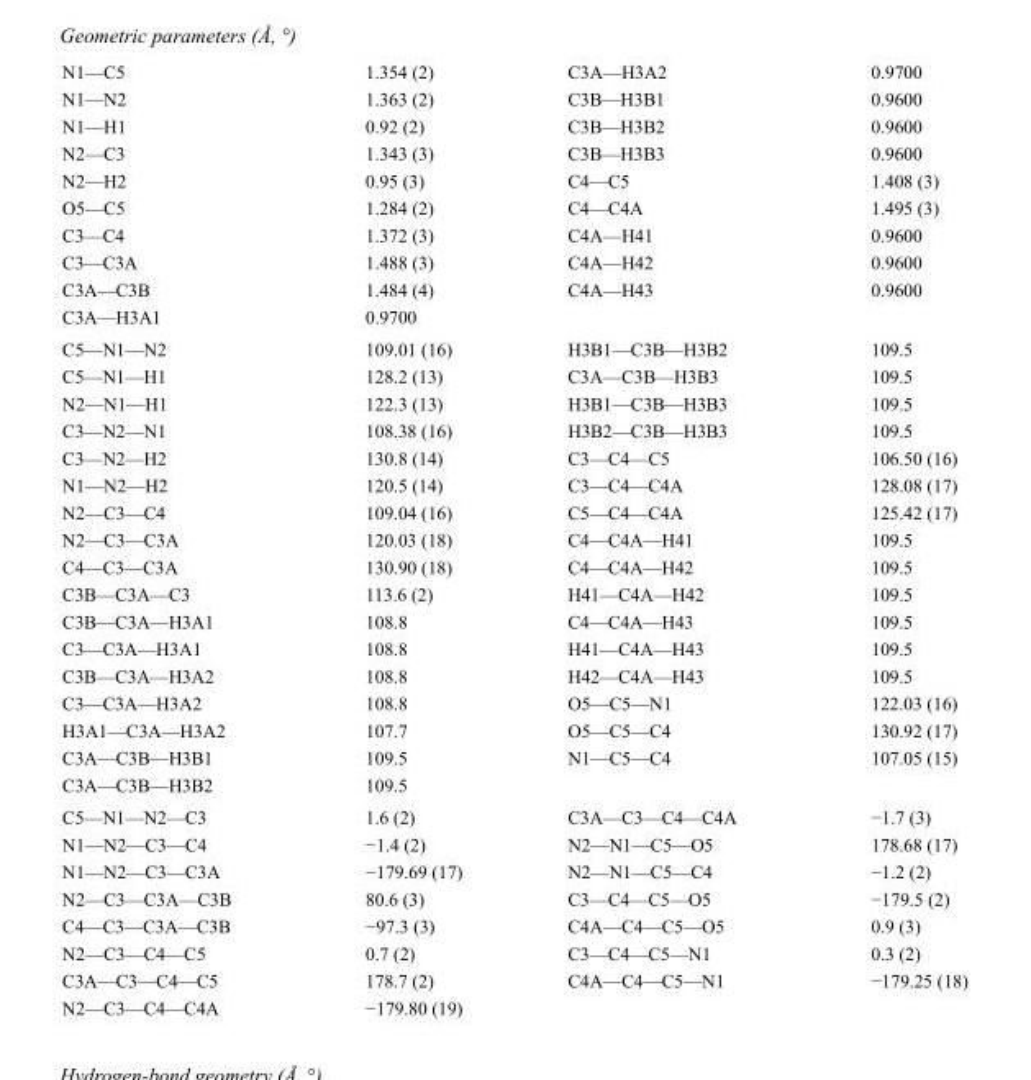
<table><tbody><tr><td>N1—C5</td><td>1.354 (2)</td><td>C3A—H3A2</td><td>0.9700</td></tr><tr><td>N1—N2</td><td>1.363 (2)</td><td>C3B—H3B1</td><td>0.9600</td></tr><tr><td>N1—H1</td><td>0.92 (2)</td><td>C3B—H3B2</td><td>0.9600</td></tr><tr><td>N2—C3</td><td>1.343 (3)</td><td>C3B—H3B3</td><td>0.9600</td></tr><tr><td>N2—H2</td><td>0.95 (3)</td><td>C4—C5</td><td>1.408 (3)</td></tr><tr><td>O5—C5</td><td>1.284 (2)</td><td>C4—C4A</td><td>1.495 (3)</td></tr><tr><td>C3—C4</td><td>1.372 (3)</td><td>C4A—H41</td><td>0.9600</td></tr><tr><td>C3—C3A</td><td>1.488 (3)</td><td>C4A—H42</td><td>0.9600</td></tr><tr><td>C3A—C3B</td><td>1.484 (4)</td><td>C4A—H43</td><td>0.9600</td></tr><tr><td>C3A—H3A1</td><td>0.9700</td><td></td><td></td></tr><tr><td>C5—N1—N2</td><td>109.01 (16)</td><td>H3B1—C3B—H3B2</td><td>109.5</td></tr><tr><td>C5—N1—H1</td><td>128.2 (13)</td><td>C3A—C3B—H3B3</td><td>109.5</td></tr><tr><td>N2—N1—H1</td><td>122.3 (13)</td><td>H3B1—C3B—H3B3</td><td>109.5</td></tr><tr><td>C3—N2—N1</td><td>108.38 (16)</td><td>H3B2—C3B—H3B3</td><td>109.5</td></tr><tr><td>C3—N2—H2</td><td>130.8 (14)</td><td>C3—C4—C5</td><td>106.50 (16)</td></tr><tr><td>N1—N2—H2</td><td>120.5 (14)</td><td>C3—C4—C4A</td><td>128.08 (17)</td></tr><tr><td>N2—C3—C4</td><td>109.04 (16)</td><td>C5—C4—C4A</td><td>125.42 (17)</td></tr><tr><td>N2—C3—C3A</td><td>120.03 (18)</td><td>C4—C4A—H41</td><td>109.5</td></tr><tr><td>C4—C3—C3A</td><td>130.90 (18)</td><td>C4—C4A—H42</td><td>109.5</td></tr><tr><td>C3B—C3A—C3</td><td>113.6 (2)</td><td>H41—C4A—H42</td><td>109.5</td></tr><tr><td>C3B—C3A—H3A1</td><td>108.8</td><td>C4—C4A—H43</td><td>109.5</td></tr><tr><td>C3—C3A—H3A1</td><td>108.8</td><td>H41—C4A—H43</td><td>109.5</td></tr><tr><td>C3B—C3A—H3A2</td><td>108.8</td><td>H42—C4A—H43</td><td>109.5</td></tr><tr><td>C3—C3A—H3A2</td><td>108.8</td><td>O5—C5—N1</td><td>122.03 (16)</td></tr><tr><td>H3A1—C3A—H3A2</td><td>107.7</td><td>O5—C5—C4</td><td>130.92 (17)</td></tr><tr><td>C3A—C3B—H3B1</td><td>109.5</td><td>N1—C5—C4</td><td>107.05 (15)</td></tr><tr><td>C3A—C3B—H3B2</td><td>109.5</td><td></td><td></td></tr><tr><td>C5—N1—N2—C3</td><td>1.6 (2)</td><td>C3A—C3—C4—C4A</td><td>−1.7 (3)</td></tr><tr><td>N1—N2—C3—C4</td><td>−1.4 (2)</td><td>N2—N1—C5—O5</td><td>178.68 (17)</td></tr><tr><td>N1—N2—C3—C3A</td><td>−179.69 (17)</td><td>N2—N1—C5—C4</td><td>−1.2 (2)</td></tr><tr><td>N2—C3—C3A—C3B</td><td>80.6 (3)</td><td>C3—C4—C5—O5</td><td>−179.5 (2)</td></tr><tr><td>C4—C3—C3A—C3B</td><td>−97.3 (3)</td><td>C4A—C4—C5—O5</td><td>0.9 (3)</td></tr><tr><td>N2—C3—C4—C5</td><td>0.7 (2)</td><td>C3—C4—C5—N1</td><td>0.3 (2)</td></tr><tr><td>C3A—C3—C4—C5</td><td>178.7 (2)</td><td>C4A—C4—C5—N1</td><td>−179.25 (18)</td></tr><tr><td>N2—C3—C4—C4A</td><td>−179.80 (19)</td><td></td><td></td></tr></tbody></table>